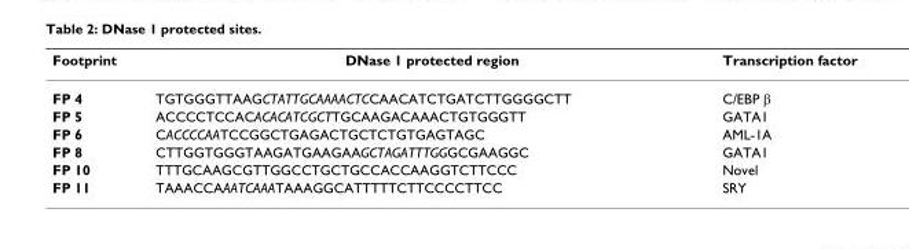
<table><thead><tr><td>Footprint</td><td>DNase 1 protected region</td><td>Transcription factor</td></tr></thead><tbody><tr><td>FP 4</td><td>TGTGGGTTAAGCTATTGCAAAACTCCAACATCTGATCTTGGGGCTT</td><td>C/EBP β</td></tr><tr><td>FP 5</td><td>ACCCCTCCACACACATCGCTTGCAAGACAAACTGTGGGTT</td><td>GATA1</td></tr><tr><td>FP 6</td><td>CACCCCAATCCGGCTGAGACTGCTCTGTGAGTAGC</td><td>AML-1A</td></tr><tr><td>FP 8</td><td>CTTGGTGGGTAAGATGAAGAAGCTAGATTTGGGCGAAGGC</td><td>GATA1</td></tr><tr><td>FP 10</td><td>TTTGCAAGCGTTGGCCTGCTGCCACCAAGGTCTTCCC</td><td>Novel</td></tr><tr><td>FP 11</td><td>TAAACCAAATCAAATAAAGGCATTTTTCTTCCCCTTCC</td><td>SRY</td></tr></tbody></table>